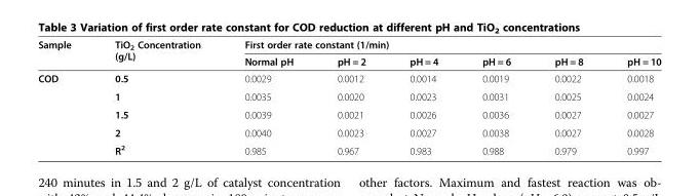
<table><thead><tr><td rowspan="2">Sample</td><td rowspan="2">TiO<sub>2</sub> Concentration (g/L)</td><td colspan="6">First order rate constant (1/min)</td></tr><tr><td>Normal pH</td><td>pH = 2</td><td>pH = 4</td><td>pH = 6</td><td>pH = 8</td><td>pH = 10</td></tr></thead><tbody><tr><td rowspan="5">COD</td><td>0.5</td><td>0.0029</td><td>0.0012</td><td>0.0014</td><td>0.0019</td><td>0.0022</td><td>0.0018</td></tr><tr><td>1</td><td>0.0035</td><td>0.0020</td><td>0.0023</td><td>0.0031</td><td>0.0025</td><td>0.0024</td></tr><tr><td>1.5</td><td>0.0039</td><td>0.0021</td><td>0.0026</td><td>0.0036</td><td>0.0027</td><td>0.0027</td></tr><tr><td>2</td><td>0.0040</td><td>0.0023</td><td>0.0027</td><td>0.0038</td><td>0.0027</td><td>0.0028</td></tr><tr><td>R<sup>2</sup></td><td>0.985</td><td>0.967</td><td>0.983</td><td>0.988</td><td>0.979</td><td>0.997</td></tr></tbody></table>